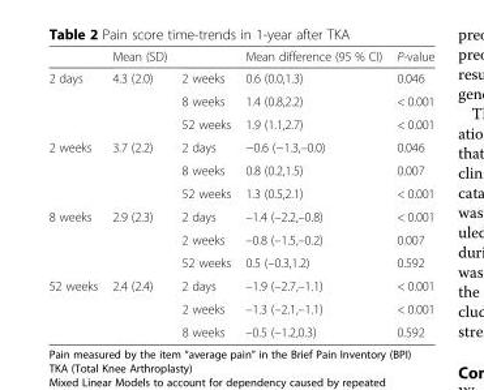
<table><thead><tr><td></td><td>Mean (SD)</td><td></td><td>Mean difference (95 % CI)</td><td>P-value</td></tr></thead><tbody><tr><td rowspan="3">2 days</td><td>4.3 (2.0)</td><td>2 weeks</td><td>0.6 (0.0,1.3)</td><td>0.046</td></tr><tr><td></td><td>8 weeks</td><td>1.4 (0.8,2.2)</td><td>&lt; 0.001</td></tr><tr><td></td><td>52 weeks</td><td>1.9 (1.1,2.7)</td><td>&lt; 0.001</td></tr><tr><td rowspan="3">2 weeks</td><td>3.7 (2.2)</td><td>2 days</td><td>−0.6 (−1.3,–0.0)</td><td>0.046</td></tr><tr><td></td><td>8 weeks</td><td>0.8 (0.2,1.5)</td><td>0.007</td></tr><tr><td></td><td>52 weeks</td><td>1.3 (0.5,2.1)</td><td>&lt; 0.001</td></tr><tr><td rowspan="3">8 weeks</td><td>2.9 (2.3)</td><td>2 days</td><td>–1.4 (–2.2,–0.8)</td><td>&lt; 0.001</td></tr><tr><td></td><td>2 weeks</td><td>–0.8 (–1.5,–0.2)</td><td>0.007</td></tr><tr><td></td><td>52 weeks</td><td>0.5 (–0.3,1.2)</td><td>0.592</td></tr><tr><td rowspan="3">52 weeks</td><td>2.4 (2.4)</td><td>2 days</td><td>–1.9 (–2.7,–1.1)</td><td>&lt; 0.001</td></tr><tr><td></td><td>2 weeks</td><td>–1.3 (–2.1,–1.1)</td><td>&lt; 0.001</td></tr><tr><td></td><td>8 weeks</td><td>–0.5 (–1.2,0.3)</td><td>0.592</td></tr></tbody></table>